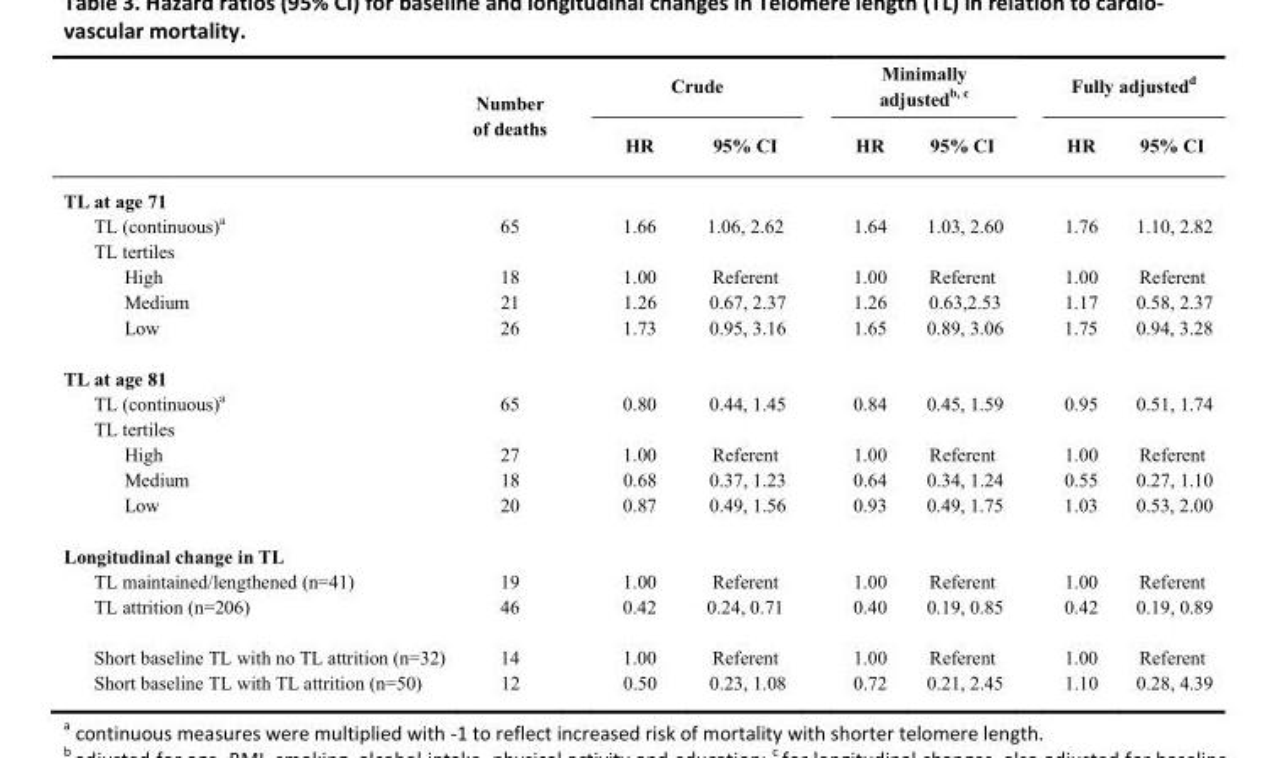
<table><thead><tr><td rowspan="2"></td><td rowspan="2">Number of deaths</td><td colspan="2">Crude</td><td colspan="2">Minimally adjusted<sup>b, c</sup></td><td colspan="2">Fully adjusted<sup>d</sup></td></tr><tr><td>HR</td><td>95% CI</td><td>HR</td><td>95% CI</td><td>HR</td><td>95% CI</td></tr></thead><tbody><tr><td colspan="8">TL at age 71</td></tr><tr><td>TL (continuous)<sup>a</sup></td><td>65</td><td>1.66</td><td>1.06, 2.62</td><td>1.64</td><td>1.03, 2.60</td><td>1.76</td><td>1.10, 2.82</td></tr><tr><td colspan="8">TL tertiles</td></tr><tr><td>High</td><td>18</td><td>1.00</td><td>Referent</td><td>1.00</td><td>Referent</td><td>1.00</td><td>Referent</td></tr><tr><td>Medium</td><td>21</td><td>1.26</td><td>0.67, 2.37</td><td>1.26</td><td>0.63,2.53</td><td>1.17</td><td>0.58, 2.37</td></tr><tr><td>Low</td><td>26</td><td>1.73</td><td>0.95, 3.16</td><td>1.65</td><td>0.89, 3.06</td><td>1.75</td><td>0.94, 3.28</td></tr><tr><td colspan="8">TL at age 81</td></tr><tr><td>TL (continuous)<sup>a</sup></td><td>65</td><td>0.80</td><td>0.44, 1.45</td><td>0.84</td><td>0.45, 1.59</td><td>0.95</td><td>0.51, 1.74</td></tr><tr><td colspan="8">TL tertiles</td></tr><tr><td>High</td><td>27</td><td>1.00</td><td>Referent</td><td>1.00</td><td>Referent</td><td>1.00</td><td>Referent</td></tr><tr><td>Medium</td><td>18</td><td>0.68</td><td>0.37, 1.23</td><td>0.64</td><td>0.34, 1.24</td><td>0.55</td><td>0.27, 1.10</td></tr><tr><td>Low</td><td>20</td><td>0.87</td><td>0.49, 1.56</td><td>0.93</td><td>0.49, 1.75</td><td>1.03</td><td>0.53, 2.00</td></tr><tr><td colspan="8">Longitudinal change in TL</td></tr><tr><td>TL maintained/lengthened (n=41)</td><td>19</td><td>1.00</td><td>Referent</td><td>1.00</td><td>Referent</td><td>1.00</td><td>Referent</td></tr><tr><td>TL attrition (n=206)</td><td>46</td><td>0.42</td><td>0.24, 0.71</td><td>0.40</td><td>0.19, 0.85</td><td>0.42</td><td>0.19, 0.89</td></tr><tr><td>Short baseline TL with no TL attrition (n=32)</td><td>14</td><td>1.00</td><td>Referent</td><td>1.00</td><td>Referent</td><td>1.00</td><td>Referent</td></tr><tr><td>Short baseline TL with TL attrition (n=50)</td><td>12</td><td>0.50</td><td>0.23, 1.08</td><td>0.72</td><td>0.21, 2.45</td><td>1.10</td><td>0.28, 4.39</td></tr></tbody></table>